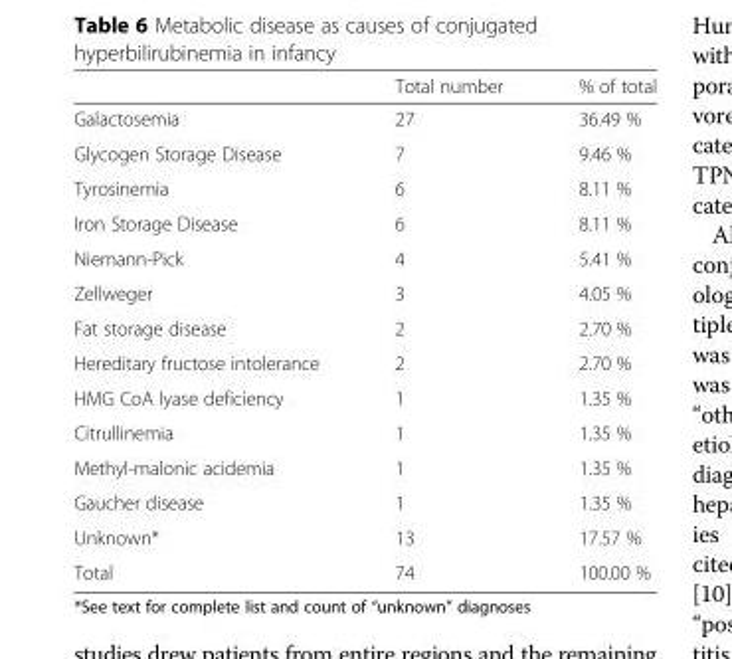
<table><thead><tr><td></td><td>Total number</td><td>% of total</td></tr></thead><tbody><tr><td>Galactosemia</td><td>27</td><td>36.49 %</td></tr><tr><td>Glycogen Storage Disease</td><td>7</td><td>9.46 %</td></tr><tr><td>Tyrosinemia</td><td>6</td><td>8.11 %</td></tr><tr><td>Iron Storage Disease</td><td>6</td><td>8.11 %</td></tr><tr><td>Niemann-Pick</td><td>4</td><td>5.41 %</td></tr><tr><td>Zellweger</td><td>3</td><td>4.05 %</td></tr><tr><td>Fat storage disease</td><td>2</td><td>2.70 %</td></tr><tr><td>Hereditary fructose intolerance</td><td>2</td><td>2.70 %</td></tr><tr><td>HMG CoA lyase deficiency</td><td>1</td><td>1.35 %</td></tr><tr><td>Citrullinemia</td><td>1</td><td>1.35 %</td></tr><tr><td>Methyl-malonic acidemia</td><td>1</td><td>1.35 %</td></tr><tr><td>Gaucher disease</td><td>1</td><td>1.35 %</td></tr><tr><td>Unknown*</td><td>13</td><td>17.57 %</td></tr><tr><td>Total</td><td>74</td><td>100.00 %</td></tr></tbody></table>